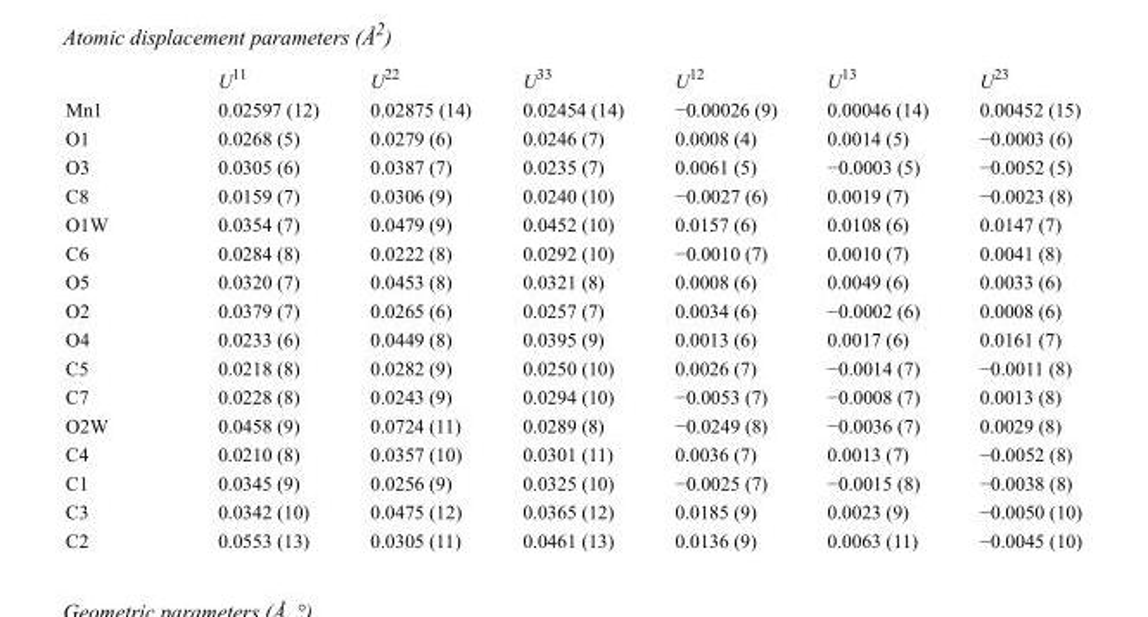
<table><thead><tr><td></td><td>U<sup>11</sup></td><td>U<sup>22</sup></td><td>U<sup>33</sup></td><td>U<sup>12</sup></td><td>U<sup>13</sup></td><td>U<sup>23</sup></td></tr></thead><tbody><tr><td>Mn1</td><td>0.02597 (12)</td><td>0.02875 (14)</td><td>0.02454 (14)</td><td>−0.00026 (9)</td><td>0.00046 (14)</td><td>0.00452 (15)</td></tr><tr><td>O1</td><td>0.0268 (5)</td><td>0.0279 (6)</td><td>0.0246 (7)</td><td>0.0008 (4)</td><td>0.0014 (5)</td><td>−0.0003 (6)</td></tr><tr><td>O3</td><td>0.0305 (6)</td><td>0.0387 (7)</td><td>0.0235 (7)</td><td>0.0061 (5)</td><td>−0.0003 (5)</td><td>−0.0052 (5)</td></tr><tr><td>C8</td><td>0.0159 (7)</td><td>0.0306 (9)</td><td>0.0240 (10)</td><td>−0.0027 (6)</td><td>0.0019 (7)</td><td>−0.0023 (8)</td></tr><tr><td>O1W</td><td>0.0354 (7)</td><td>0.0479 (9)</td><td>0.0452 (10)</td><td>0.0157 (6)</td><td>0.0108 (6)</td><td>0.0147 (7)</td></tr><tr><td>C6</td><td>0.0284 (8)</td><td>0.0222 (8)</td><td>0.0292 (10)</td><td>−0.0010 (7)</td><td>0.0010 (7)</td><td>0.0041 (8)</td></tr><tr><td>O5</td><td>0.0320 (7)</td><td>0.0453 (8)</td><td>0.0321 (8)</td><td>0.0008 (6)</td><td>0.0049 (6)</td><td>0.0033 (6)</td></tr><tr><td>O2</td><td>0.0379 (7)</td><td>0.0265 (6)</td><td>0.0257 (7)</td><td>0.0034 (6)</td><td>−0.0002 (6)</td><td>0.0008 (6)</td></tr><tr><td>O4</td><td>0.0233 (6)</td><td>0.0449 (8)</td><td>0.0395 (9)</td><td>0.0013 (6)</td><td>0.0017 (6)</td><td>0.0161 (7)</td></tr><tr><td>C5</td><td>0.0218 (8)</td><td>0.0282 (9)</td><td>0.0250 (10)</td><td>0.0026 (7)</td><td>−0.0014 (7)</td><td>−0.0011 (8)</td></tr><tr><td>C7</td><td>0.0228 (8)</td><td>0.0243 (9)</td><td>0.0294 (10)</td><td>−0.0053 (7)</td><td>−0.0008 (7)</td><td>0.0013 (8)</td></tr><tr><td>O2W</td><td>0.0458 (9)</td><td>0.0724 (11)</td><td>0.0289 (8)</td><td>−0.0249 (8)</td><td>−0.0036 (7)</td><td>0.0029 (8)</td></tr><tr><td>C4</td><td>0.0210 (8)</td><td>0.0357 (10)</td><td>0.0301 (11)</td><td>0.0036 (7)</td><td>0.0013 (7)</td><td>−0.0052 (8)</td></tr><tr><td>C1</td><td>0.0345 (9)</td><td>0.0256 (9)</td><td>0.0325 (10)</td><td>−0.0025 (7)</td><td>−0.0015 (8)</td><td>−0.0038 (8)</td></tr><tr><td>C3</td><td>0.0342 (10)</td><td>0.0475 (12)</td><td>0.0365 (12)</td><td>0.0185 (9)</td><td>0.0023 (9)</td><td>−0.0050 (10)</td></tr><tr><td>C2</td><td>0.0553 (13)</td><td>0.0305 (11)</td><td>0.0461 (13)</td><td>0.0136 (9)</td><td>0.0063 (11)</td><td>−0.0045 (10)</td></tr></tbody></table>